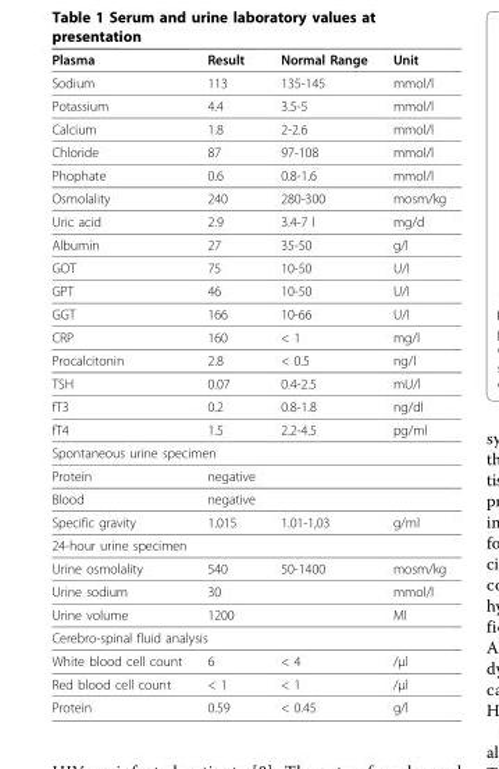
<table><thead><tr><td>Plasma</td><td>Result</td><td>Normal Range</td><td>Unit</td></tr></thead><tbody><tr><td>Sodium</td><td>113</td><td>135-145</td><td>mmol/l</td></tr><tr><td>Potassium</td><td>4.4</td><td>3.5-5</td><td>mmol/l</td></tr><tr><td>Calcium</td><td>1.8</td><td>2-2.6</td><td>mmol/l</td></tr><tr><td>Chloride</td><td>87</td><td>97-108</td><td>mmol/l</td></tr><tr><td>Phophate</td><td>0.6</td><td>0.8-1.6</td><td>mmol/l</td></tr><tr><td>Osmolality</td><td>240</td><td>280-300</td><td>mosm/kg</td></tr><tr><td>Uric acid</td><td>2.9</td><td>3.4-7 l</td><td>mg/d</td></tr><tr><td>Albumin</td><td>27</td><td>35-50</td><td>g/l</td></tr><tr><td>GOT</td><td>75</td><td>10-50</td><td>U/I</td></tr><tr><td>GPT</td><td>46</td><td>10-50</td><td>U/I</td></tr><tr><td>GGT</td><td>166</td><td>10-66</td><td>U/I</td></tr><tr><td>CRP</td><td>160</td><td>&lt; 1</td><td>mg/l</td></tr><tr><td>Procalcitonin</td><td>2.8</td><td>&lt; 0.5</td><td>ng/l</td></tr><tr><td>TSH</td><td>0.07</td><td>0.4-2.5</td><td>mU/l</td></tr><tr><td>fT3</td><td>0.2</td><td>0.8-1.8</td><td>ng/dl</td></tr><tr><td>fT4</td><td>1.5</td><td>2.2-4.5</td><td>pg/ml</td></tr><tr><td colspan="4">Spontaneous urine specimen</td></tr><tr><td>Protein</td><td>negative</td><td></td><td></td></tr><tr><td>Blood</td><td>negative</td><td></td><td></td></tr><tr><td>Specific gravity</td><td>1.015</td><td>1.01-1,03</td><td>g/ml</td></tr><tr><td colspan="4">24-hour urine specimen</td></tr><tr><td>Urine osmolality</td><td>540</td><td>50-1400</td><td>mosm/kg</td></tr><tr><td>Urine sodium</td><td>30</td><td></td><td>mmol/l</td></tr><tr><td>Urine volume</td><td>1200</td><td></td><td>Ml</td></tr><tr><td colspan="4">Cerebro-spinal fluid analysis</td></tr><tr><td>White blood cell count</td><td>6</td><td>&lt; 4</td><td>/μl</td></tr><tr><td>Red blood cell count</td><td>&lt; 1</td><td>&lt; 1</td><td>/μl</td></tr><tr><td>Protein</td><td>0.59</td><td>&lt; 0.45</td><td>g/l</td></tr></tbody></table>